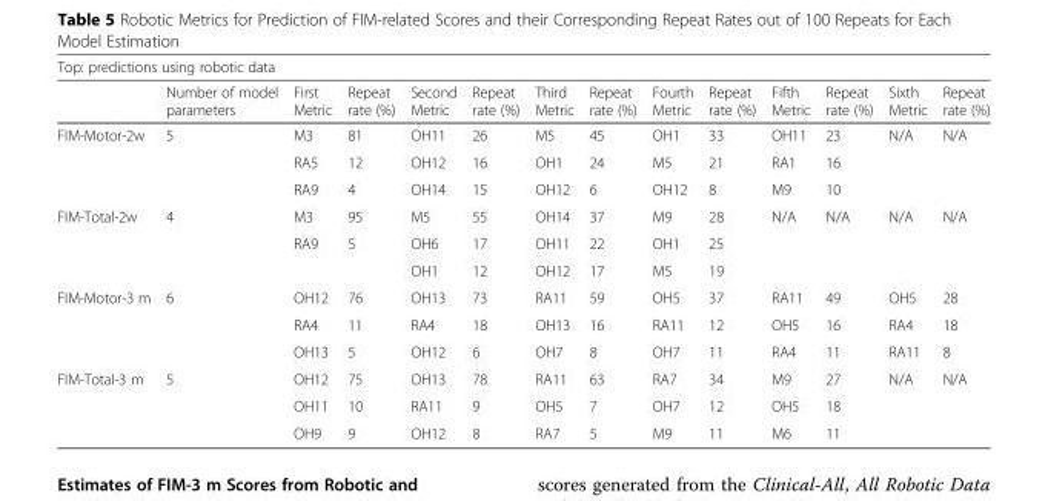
<table><thead><tr><td colspan="14">Top: predictions using robotic data</td></tr><tr><td></td><td>Number of model parameters</td><td>First Metric</td><td>Repeat rate (%)</td><td>Second Metric</td><td>Repeat rate (%)</td><td>Third Metric</td><td>Repeat rate (%)</td><td>Fourth Metric</td><td>Repeat rate (%)</td><td>Fifth Metric</td><td>Repeat rate (%)</td><td>Sixth Metric</td><td>Repeat rate (%)</td></tr></thead><tbody><tr><td rowspan="3">FIM-Motor-2w</td><td rowspan="3">5</td><td>M3</td><td>81</td><td>OH11</td><td>26</td><td>M5</td><td>45</td><td>OH1</td><td>33</td><td>OH11</td><td>23</td><td>N/A</td><td>N/A</td></tr><tr><td>RA5</td><td>12</td><td>OH12</td><td>16</td><td>OH1</td><td>24</td><td>M5</td><td>21</td><td>RA1</td><td>16</td><td></td><td></td></tr><tr><td>RA9</td><td>4</td><td>OH14</td><td>15</td><td>OH12</td><td>6</td><td>OH12</td><td>8</td><td>M9</td><td>10</td><td></td><td></td></tr><tr><td rowspan="3">FIM-Total-2w</td><td rowspan="3">4</td><td>M3</td><td>95</td><td>M5</td><td>55</td><td>OH14</td><td>37</td><td>M9</td><td>28</td><td>N/A</td><td>N/A</td><td>N/A</td><td>N/A</td></tr><tr><td>RA9</td><td>5</td><td>OH6</td><td>17</td><td>OH11</td><td>22</td><td>OH1</td><td>25</td><td></td><td></td><td></td><td></td></tr><tr><td></td><td></td><td>OH1</td><td>12</td><td>OH12</td><td>17</td><td>M5</td><td>19</td><td></td><td></td><td></td><td></td></tr><tr><td rowspan="3">FIM-Motor-3 m</td><td rowspan="3">6</td><td>OH12</td><td>76</td><td>OH13</td><td>73</td><td>RA11</td><td>59</td><td>OH5</td><td>37</td><td>RA11</td><td>49</td><td>OH5</td><td>28</td></tr><tr><td>RA4</td><td>11</td><td>RA4</td><td>18</td><td>OH13</td><td>16</td><td>RA11</td><td>12</td><td>OH5</td><td>16</td><td>RA4</td><td>18</td></tr><tr><td>OH13</td><td>5</td><td>OH12</td><td>6</td><td>OH7</td><td>8</td><td>OH7</td><td>11</td><td>RA4</td><td>11</td><td>RA11</td><td>8</td></tr><tr><td rowspan="3">FIM-Total-3 m</td><td rowspan="3">5</td><td>OH12</td><td>75</td><td>OH13</td><td>78</td><td>RA11</td><td>63</td><td>RA7</td><td>34</td><td>M9</td><td>27</td><td>N/A</td><td>N/A</td></tr><tr><td>OH11</td><td>10</td><td>RA11</td><td>9</td><td>OH5</td><td>7</td><td>OH7</td><td>12</td><td>OH5</td><td>18</td><td></td><td></td></tr><tr><td>OH9</td><td>9</td><td>OH12</td><td>8</td><td>RA7</td><td>5</td><td>M9</td><td>11</td><td>M6</td><td>11</td><td></td><td></td></tr></tbody></table>